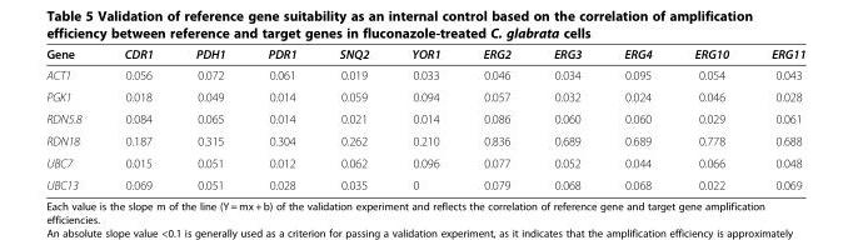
<table><thead><tr><td>Gene</td><td>CDR1</td><td>PDH1</td><td>PDR1</td><td>SNQ2</td><td>YOR1</td><td>ERG2</td><td>ERG3</td><td>ERG4</td><td>ERG10</td><td>ERG11</td></tr></thead><tbody><tr><td>ACT1</td><td>0.056</td><td>0.072</td><td>0.061</td><td>0.019</td><td>0.033</td><td>0.046</td><td>0.034</td><td>0.095</td><td>0.054</td><td>0.043</td></tr><tr><td>PGK1</td><td>0.018</td><td>0.049</td><td>0.014</td><td>0.059</td><td>0.094</td><td>0.057</td><td>0.032</td><td>0.024</td><td>0.046</td><td>0.028</td></tr><tr><td>RDN5.8</td><td>0.084</td><td>0.065</td><td>0.014</td><td>0.021</td><td>0.014</td><td>0.086</td><td>0.060</td><td>0.060</td><td>0.029</td><td>0.061</td></tr><tr><td>RDN18</td><td>0.187</td><td>0.315</td><td>0.304</td><td>0.262</td><td>0.210</td><td>0.836</td><td>0.689</td><td>0.689</td><td>0.778</td><td>0.688</td></tr><tr><td>UBC7</td><td>0.015</td><td>0.051</td><td>0.012</td><td>0.062</td><td>0.096</td><td>0.077</td><td>0.052</td><td>0.044</td><td>0.066</td><td>0.048</td></tr><tr><td>UBC13</td><td>0.069</td><td>0.051</td><td>0.028</td><td>0.035</td><td>0</td><td>0.079</td><td>0.068</td><td>0.068</td><td>0.022</td><td>0.069</td></tr></tbody></table>